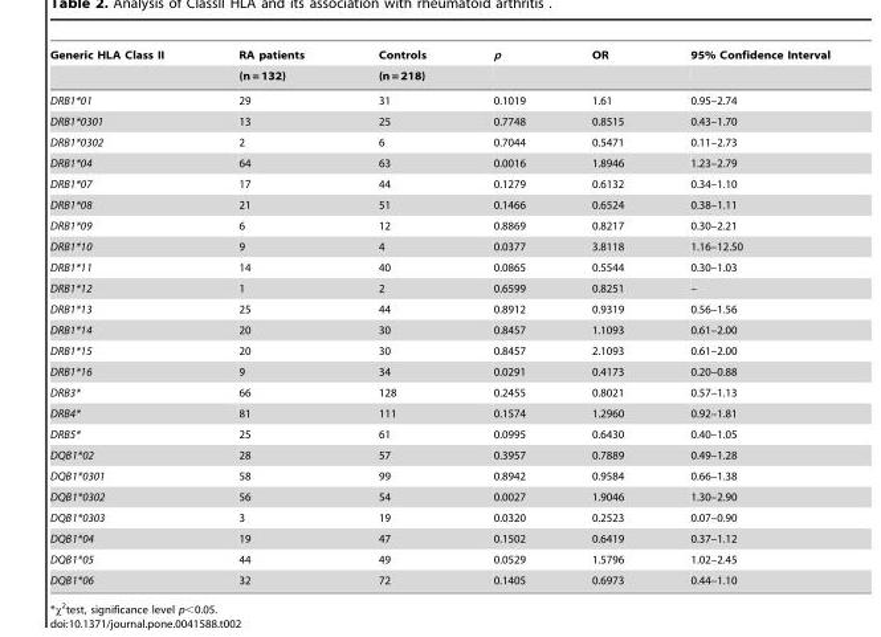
<table><thead><tr><td rowspan="2">Generic HLA Class II</td><td rowspan="2">RA patients (n = 132)</td><td rowspan="2">Controls (n = 218)</td><td rowspan="2">p</td><td rowspan="2">OR</td><td rowspan="2">95% Confidence Interval</td></tr><tr></tr></thead><tbody><tr><td>DRB1*01</td><td>29</td><td>31</td><td>0.1019</td><td>1.61</td><td>0.95–2.74</td></tr><tr><td>DRB1*0301</td><td>13</td><td>25</td><td>0.7748</td><td>0.8515</td><td>0.43–1.70</td></tr><tr><td>DRB1*0302</td><td>2</td><td>6</td><td>0.7044</td><td>0.5471</td><td>0.11–2.73</td></tr><tr><td>DRB1*04</td><td>64</td><td>63</td><td>0.0016</td><td>1.8946</td><td>1.23–2.79</td></tr><tr><td>DRB1*07</td><td>17</td><td>44</td><td>0.1279</td><td>0.6132</td><td>0.34–1.10</td></tr><tr><td>DRB1*08</td><td>21</td><td>51</td><td>0.1466</td><td>0.6524</td><td>0.38–1.11</td></tr><tr><td>DRB1*09</td><td>6</td><td>12</td><td>0.8869</td><td>0.8217</td><td>0.30–2.21</td></tr><tr><td>DRB1*10</td><td>9</td><td>4</td><td>0.0377</td><td>3.8118</td><td>1.16–12.50</td></tr><tr><td>DRB1*11</td><td>14</td><td>40</td><td>0.0865</td><td>0.5544</td><td>0.30–1.03</td></tr><tr><td>DRB1*12</td><td>1</td><td>2</td><td>0.6599</td><td>0.8251</td><td>–</td></tr><tr><td>DRB1*13</td><td>25</td><td>44</td><td>0.8912</td><td>0.9319</td><td>0.56–1.56</td></tr><tr><td>DRB1*14</td><td>20</td><td>30</td><td>0.8457</td><td>1.1093</td><td>0.61–2.00</td></tr><tr><td>DRB1*15</td><td>20</td><td>30</td><td>0.8457</td><td>2.1093</td><td>0.61–2.00</td></tr><tr><td>DRB1*16</td><td>9</td><td>34</td><td>0.0291</td><td>0.4173</td><td>0.20–0.88</td></tr><tr><td>DRB3*</td><td>66</td><td>128</td><td>0.2455</td><td>0.8021</td><td>0.57–1.13</td></tr><tr><td>DRB4*</td><td>81</td><td>111</td><td>0.1574</td><td>1.2960</td><td>0.92–1.81</td></tr><tr><td>DRB5*</td><td>25</td><td>61</td><td>0.0995</td><td>0.6430</td><td>0.40–1.05</td></tr><tr><td>DQB1*02</td><td>28</td><td>57</td><td>0.3957</td><td>0.7889</td><td>0.49–1.28</td></tr><tr><td>DQB1*0301</td><td>58</td><td>99</td><td>0.8942</td><td>0.9584</td><td>0.66–1.38</td></tr><tr><td>DQB1*0302</td><td>56</td><td>54</td><td>0.0027</td><td>1.9046</td><td>1.30–2.90</td></tr><tr><td>DQB1*0303</td><td>3</td><td>19</td><td>0.0320</td><td>0.2523</td><td>0.07–0.90</td></tr><tr><td>DQB1*04</td><td>19</td><td>47</td><td>0.1502</td><td>0.6419</td><td>0.37–1.12</td></tr><tr><td>DQB1*05</td><td>44</td><td>49</td><td>0.0529</td><td>1.5796</td><td>1.02–2.45</td></tr><tr><td>DQB1*06</td><td>32</td><td>72</td><td>0.1405</td><td>0.6973</td><td>0.44–1.10</td></tr></tbody></table>